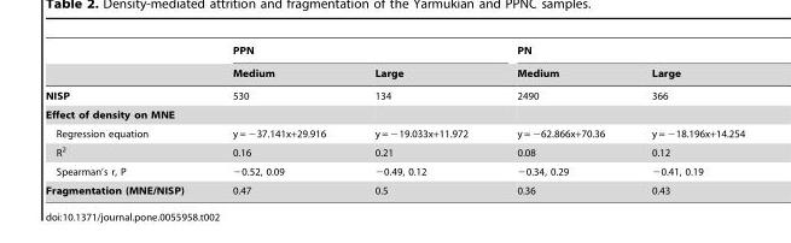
<table><thead><tr><td rowspan="2"></td><td colspan="2">PPN</td><td colspan="2">PN</td></tr><tr><td>Medium</td><td>Large</td><td>Medium</td><td>Large</td></tr></thead><tbody><tr><td>NISP</td><td>530</td><td>134</td><td>2490</td><td>366</td></tr><tr><td colspan="5">Effect of density on MNE</td></tr><tr><td>Regression equation</td><td>y = −37.141x+29.916</td><td>y = −19.033x+11.972</td><td>y = −62.866x+70.36</td><td>y = −18.196x+14.254</td></tr><tr><td>R<sup>2</sup></td><td>0.16</td><td>0.21</td><td>0.08</td><td>0.12</td></tr><tr><td>Spearman’s r, P</td><td>−0.52, 0.09</td><td>−0.49, 0.12</td><td>−0.34, 0.29</td><td>−0.41, 0.19</td></tr><tr><td>Fragmentation (MNE/NISP)</td><td>0.47</td><td>0.5</td><td>0.36</td><td>0.43</td></tr></tbody></table>